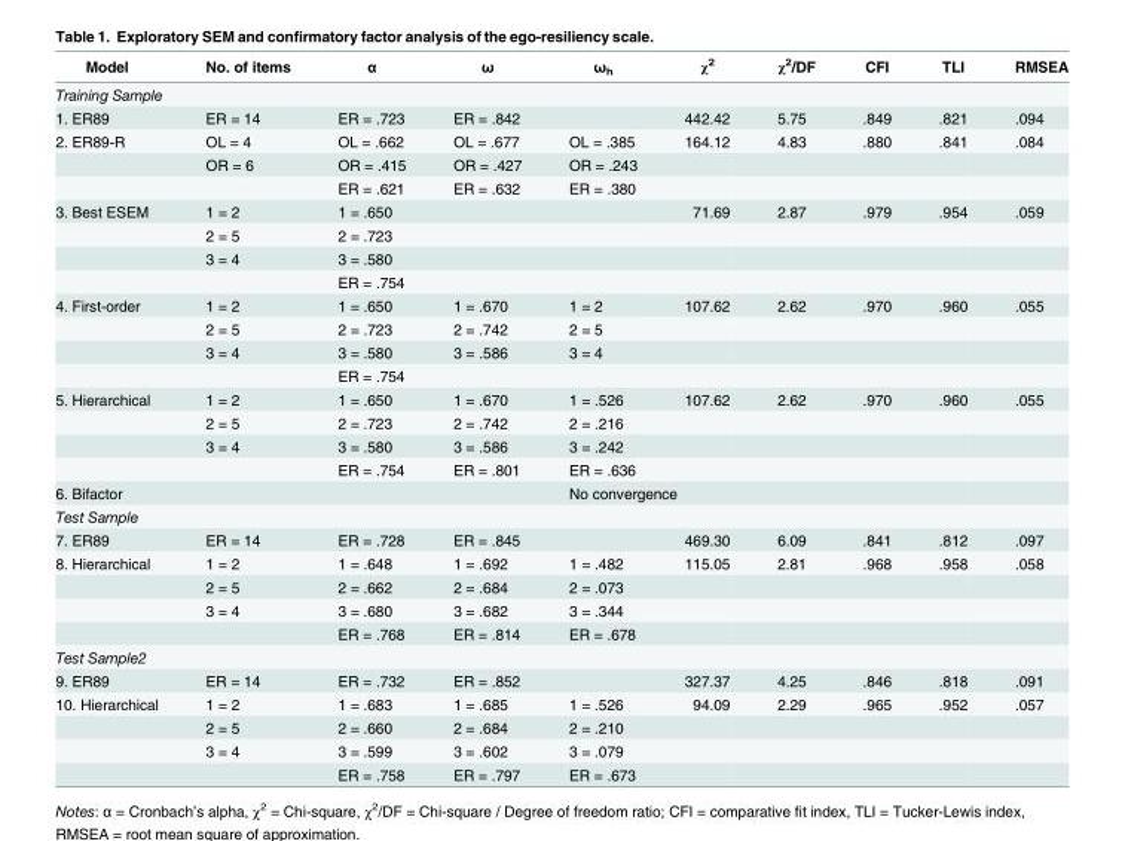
<table><thead><tr><td>Model</td><td>No. of items</td><td>α</td><td>ω</td><td>ω<sub>h</sub></td><td>χ<sup>2</sup></td><td>χ<sup>2</sup>/DF</td><td>CFI</td><td>TLI</td><td>RMSEA</td></tr></thead><tbody><tr><td colspan="10">Training Sample</td></tr><tr><td>1. ER89</td><td>ER = 14</td><td>ER = .723</td><td>ER = .842</td><td></td><td>442.42</td><td>5.75</td><td>.849</td><td>.821</td><td>.094</td></tr><tr><td rowspan="3">2. ER89-R</td><td>OL = 4</td><td>OL = .662</td><td>OL = .677</td><td>OL = .385</td><td>164.12</td><td>4.83</td><td>.880</td><td>.841</td><td>.084</td></tr><tr><td>OR = 6</td><td>OR = .415</td><td>OR = .427</td><td>OR = .243</td><td></td><td></td><td></td><td></td><td></td></tr><tr><td></td><td>ER = .621</td><td>ER = .632</td><td>ER = .380</td><td></td><td></td><td></td><td></td><td></td></tr><tr><td rowspan="4">3. Best ESEM</td><td>1 = 2</td><td>1 = .650</td><td></td><td></td><td>71.69</td><td>2.87</td><td>.979</td><td>.954</td><td>.059</td></tr><tr><td>2 = 5</td><td>2 = .723</td><td></td><td></td><td></td><td></td><td></td><td></td><td></td></tr><tr><td>3 = 4</td><td>3 = .580</td><td></td><td></td><td></td><td></td><td></td><td></td><td></td></tr><tr><td></td><td>ER = .754</td><td></td><td></td><td></td><td></td><td></td><td></td><td></td></tr><tr><td rowspan="4">4. First-order</td><td>1 = 2</td><td>1 = .650</td><td>1 = .670</td><td>1 = 2</td><td>107.62</td><td>2.62</td><td>.970</td><td>.960</td><td>.055</td></tr><tr><td>2 = 5</td><td>2 = .723</td><td>2 = .742</td><td>2 = 5</td><td></td><td></td><td></td><td></td><td></td></tr><tr><td>3 = 4</td><td>3 = .580</td><td>3 = .586</td><td>3 = 4</td><td></td><td></td><td></td><td></td><td></td></tr><tr><td></td><td>ER = .754</td><td></td><td></td><td></td><td></td><td></td><td></td><td></td></tr><tr><td rowspan="4">5. Hierarchical</td><td>1 = 2</td><td>1 = .650</td><td>1 = .670</td><td>1 = .526</td><td>107.62</td><td>2.62</td><td>.970</td><td>.960</td><td>.055</td></tr><tr><td>2 = 5</td><td>2 = .723</td><td>2 = .742</td><td>2 = .216</td><td></td><td></td><td></td><td></td><td></td></tr><tr><td>3 = 4</td><td>3 = .580</td><td>3 = .586</td><td>3 = .242</td><td></td><td></td><td></td><td></td><td></td></tr><tr><td></td><td>ER = .754</td><td>ER = .801</td><td>ER = .636</td><td></td><td></td><td></td><td></td><td></td></tr><tr><td>6. Bifactor</td><td></td><td></td><td></td><td colspan="2">No convergence</td><td></td><td></td><td></td><td></td></tr><tr><td colspan="10">Test Sample</td></tr><tr><td>7. ER89</td><td>ER = 14</td><td>ER = .728</td><td>ER = .845</td><td></td><td>469.30</td><td>6.09</td><td>.841</td><td>.812</td><td>.097</td></tr><tr><td rowspan="4">8. Hierarchical</td><td>1 = 2</td><td>1 = .648</td><td>1 = .692</td><td>1 = .482</td><td>115.05</td><td>2.81</td><td>.968</td><td>.958</td><td>.058</td></tr><tr><td>2 = 5</td><td>2 = .662</td><td>2 = .684</td><td>2 = .073</td><td></td><td></td><td></td><td></td><td></td></tr><tr><td>3 = 4</td><td>3 = .680</td><td>3 = .682</td><td>3 = .344</td><td></td><td></td><td></td><td></td><td></td></tr><tr><td></td><td>ER = .768</td><td>ER = .814</td><td>ER = .678</td><td></td><td></td><td></td><td></td><td></td></tr><tr><td colspan="10">Test Sample2</td></tr><tr><td>9. ER89</td><td>ER = 14</td><td>ER = .732</td><td>ER = .852</td><td></td><td>327.37</td><td>4.25</td><td>.846</td><td>.818</td><td>.091</td></tr><tr><td rowspan="4">10. Hierarchical</td><td>1 = 2</td><td>1 = .683</td><td>1 = .685</td><td>1 = .526</td><td>94.09</td><td>2.29</td><td>.965</td><td>.952</td><td>.057</td></tr><tr><td>2 = 5</td><td>2 = .660</td><td>2 = .684</td><td>2 = .210</td><td></td><td></td><td></td><td></td><td></td></tr><tr><td>3 = 4</td><td>3 = .599</td><td>3 = .602</td><td>3 = .079</td><td></td><td></td><td></td><td></td><td></td></tr><tr><td></td><td>ER = .758</td><td>ER = .797</td><td>ER = .673</td><td></td><td></td><td></td><td></td><td></td></tr></tbody></table>